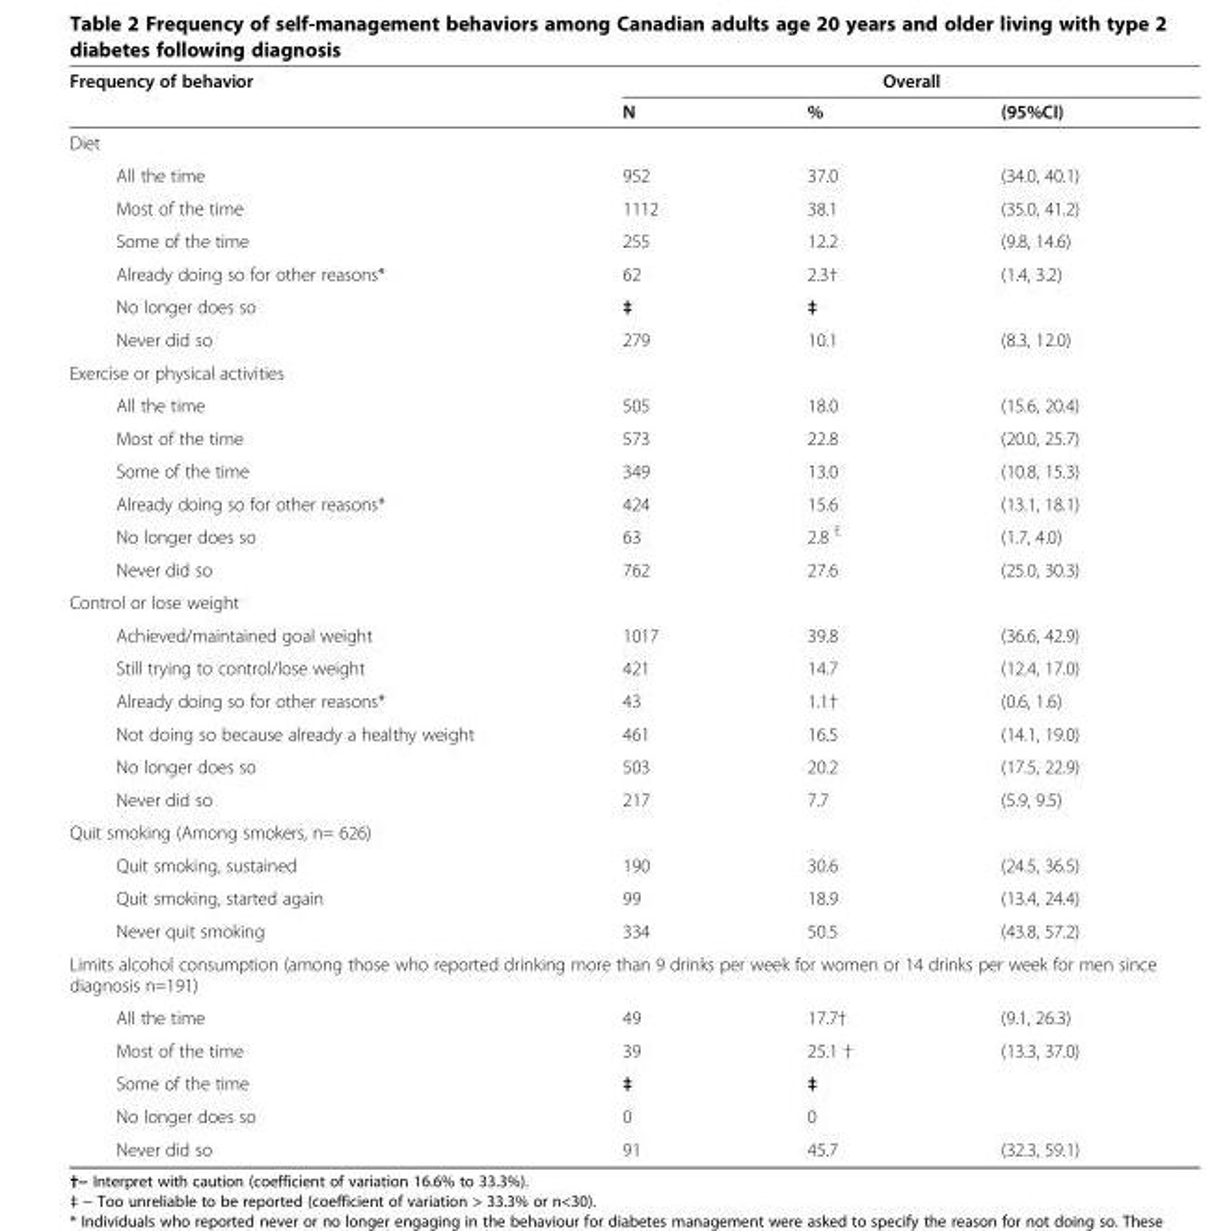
<table><thead><tr><td rowspan="2">Frequency of behavior</td><td colspan="3">Overall</td></tr><tr><td>N</td><td>%</td><td>(95%CI)</td></tr></thead><tbody><tr><td colspan="4">Diet</td></tr><tr><td>All the time</td><td>952</td><td>37.0</td><td>(34.0, 40.1)</td></tr><tr><td>Most of the time</td><td>1112</td><td>38.1</td><td>(35.0, 41.2)</td></tr><tr><td>Some of the time</td><td>255</td><td>12.2</td><td>(9.8, 14.6)</td></tr><tr><td>Already doing so for other reasons*</td><td>62</td><td>2.3†</td><td>(1.4, 3.2)</td></tr><tr><td>No longer does so</td><td>‡</td><td>‡</td><td></td></tr><tr><td>Never did so</td><td>279</td><td>10.1</td><td>(8.3, 12.0)</td></tr><tr><td colspan="4">Exercise or physical activities</td></tr><tr><td>All the time</td><td>505</td><td>18.0</td><td>(15.6, 20.4)</td></tr><tr><td>Most of the time</td><td>573</td><td>22.8</td><td>(20.0, 25.7)</td></tr><tr><td>Some of the time</td><td>349</td><td>13.0</td><td>(10.8, 15.3)</td></tr><tr><td>Already doing so for other reasons*</td><td>424</td><td>15.6</td><td>(13.1, 18.1)</td></tr><tr><td>No longer does so</td><td>63</td><td>2.8 <sup>E</sup></td><td>(1.7, 4.0)</td></tr><tr><td>Never did so</td><td>762</td><td>27.6</td><td>(25.0, 30.3)</td></tr><tr><td colspan="4">Control or lose weight</td></tr><tr><td>Achieved/maintained goal weight</td><td>1017</td><td>39.8</td><td>(36.6, 42.9)</td></tr><tr><td>Still trying to control/lose weight</td><td>421</td><td>14.7</td><td>(12.4, 17.0)</td></tr><tr><td>Already doing so for other reasons*</td><td>43</td><td>1.1†</td><td>(0.6, 1.6)</td></tr><tr><td>Not doing so because already a healthy weight</td><td>461</td><td>16.5</td><td>(14.1, 19.0)</td></tr><tr><td>No longer does so</td><td>503</td><td>20.2</td><td>(17.5, 22.9)</td></tr><tr><td>Never did so</td><td>217</td><td>7.7</td><td>(5.9, 9.5)</td></tr><tr><td colspan="4">Quit smoking (Among smokers, n= 626)</td></tr><tr><td>Quit smoking, sustained</td><td>190</td><td>30.6</td><td>(24.5, 36.5)</td></tr><tr><td>Quit smoking, started again</td><td>99</td><td>18.9</td><td>(13.4, 24.4)</td></tr><tr><td>Never quit smoking</td><td>334</td><td>50.5</td><td>(43.8, 57.2)</td></tr><tr><td colspan="4">Limits alcohol consumption (among those who reported drinking more than 9 drinks per week for women or 14 drinks per week for men since diagnosis n=191)</td></tr><tr><td>All the time</td><td>49</td><td>17.7†</td><td>(9.1, 26.3)</td></tr><tr><td>Most of the time</td><td>39</td><td>25.1 †</td><td>(13.3, 37.0)</td></tr><tr><td>Some of the time</td><td>‡</td><td>‡</td><td></td></tr><tr><td>No longer does so</td><td>0</td><td>0</td><td></td></tr><tr><td>Never did so</td><td>91</td><td>45.7</td><td>(32.3, 59.1)</td></tr></tbody></table>